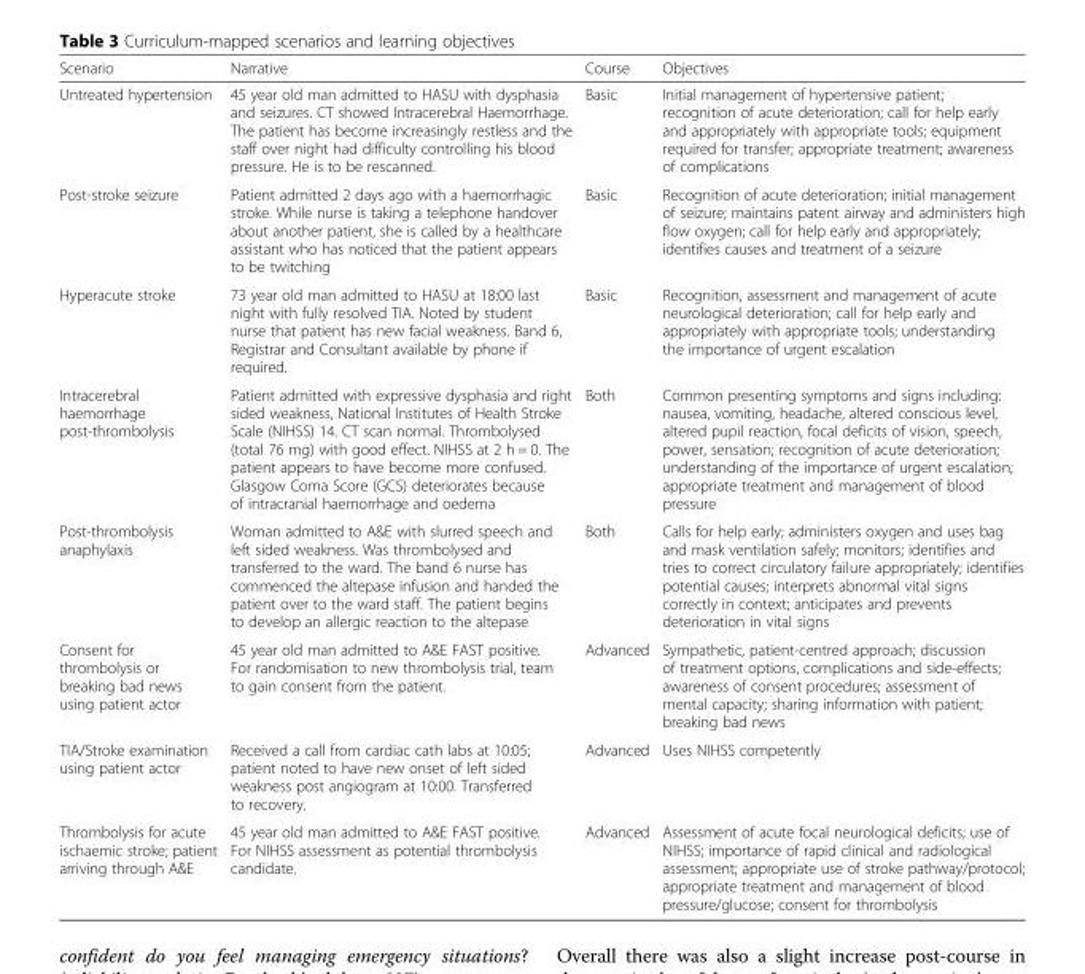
<table><thead><tr><td>Scenario</td><td>Narrative</td><td>Course</td><td>Objectives</td></tr></thead><tbody><tr><td>Untreated hypertension</td><td>45 year old man admitted to HASU with dysphasia and seizures. CT showed Intracerebral Haemorrhage. The patient has become increasingly restless and the staff over night had difficulty controlling his blood pressure. He is to be rescanned.</td><td>Basic</td><td>Initial management of hypertensive patient; recognition of acute deterioration; call for help early and appropriately with appropriate tools; equipment required for transfer; appropriate treatment; awareness of complications</td></tr><tr><td>Post-stroke seizure</td><td>Patient admitted 2 days ago with a haemorrhagic stroke. While nurse is taking a telephone handover about another patient, she is called by a healthcare assistant who has noticed that the patient appears to be twitching</td><td>Basic</td><td>Recognition of acute deterioration; initial management of seizure; maintains patent airway and administers high flow oxygen; call for help early and appropriately; identifies causes and treatment of a seizure</td></tr><tr><td>Hyperacute stroke</td><td>73 year old man admitted to HASU at 18:00 last night with fully resolved TIA. Noted by student nurse that patient has new facial weakness. Band 6, Registrar and Consultant available by phone if required.</td><td>Basic</td><td>Recognition, assessment and management of acute neurological deterioration; call for help early and appropriately with appropriate tools; understanding the importance of urgent escalation</td></tr><tr><td>Intracerebral haemorrhage post-thrombolysis</td><td>Patient admitted with expressive dysphasia and right sided weakness, National Institutes of Health Stroke Scale (NIHSS) 14. CT scan normal. Thrombolysed (total 76 mg) with good effect. NIHSS at 2 h = 0. The patient appears to have become more confused. Glasgow Coma Score (GCS) deteriorates because of intracranial haemorrhage and oedema</td><td>Both</td><td>Common presenting symptoms and signs including: nausea, vomiting, headache, altered conscious level, altered pupil reaction, focal deficits of vision, speech, power, sensation; recognition of acute deterioration; understanding of the importance of urgent escalation; appropriate treatment and management of blood pressure</td></tr><tr><td>Post-thrombolysis anaphylaxis</td><td>Woman admitted to A&amp;E with slurred speech and left sided weakness. Was thrombolysed and transferred to the ward. The band 6 nurse has commenced the altepase infusion and handed the patient over to the ward staff. The patient begins to develop an allergic reaction to the altepase</td><td>Both</td><td>Calls for help early; administers oxygen and uses bag and mask ventilation safely; monitors; identifies and tries to correct circulatory failure appropriately; identifies potential causes; interprets abnormal vital signs correctly in context; anticipates and prevents deterioration in vital signs</td></tr><tr><td>Consent for thrombolysis or breaking bad news using patient actor</td><td>45 year old man admitted to A&amp;E FAST positive. For randomisation to new thrombolysis trial, team to gain consent from the patient.</td><td>Advanced</td><td>Sympathetic, patient-centred approach; discussion of treatment options, complications and side-effects; awareness of consent procedures; assessment of mental capacity; sharing information with patient; breaking bad news</td></tr><tr><td>TIA/Stroke examination using patient actor</td><td>Received a call from cardiac cath labs at 10:05; patient noted to have new onset of left sided weakness post angiogram at 10:00. Transferred to recovery.</td><td>Advanced</td><td>Uses NIHSS competently</td></tr><tr><td>Thrombolysis for acute ischaemic stroke; patient arriving through A&amp;E</td><td>45 year old man admitted to A&amp;E FAST positive. For NIHSS assessment as potential thrombolysis candidate.</td><td>Advanced</td><td>Assessment of acute focal neurological deficits; use of NIHSS; importance of rapid clinical and radiological assessment; appropriate use of stroke pathway/protocol; appropriate treatment and management of blood pressure/glucose; consent for thrombolysis</td></tr></tbody></table>